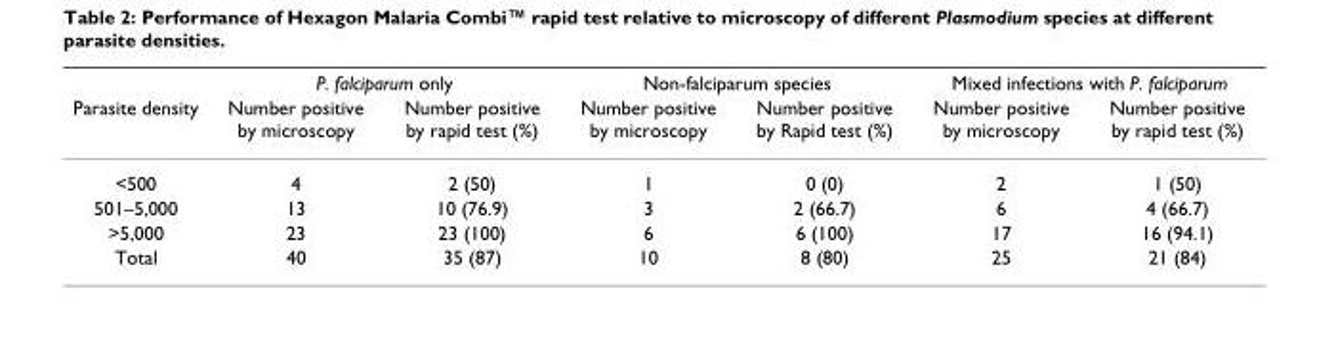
<table><thead><tr><td rowspan="2">Parasite density</td><td colspan="2">P. falciparum only</td><td colspan="2">Non-falciparum species</td><td colspan="2">Mixed infections with P. falciparum</td></tr><tr><td>Number positive by microscopy</td><td>Number positive by rapid test (%)</td><td>Number positive by microscopy</td><td>Number positive by Rapid test (%)</td><td>Number positive by microscopy</td><td>Number positive by rapid test (%)</td></tr></thead><tbody><tr><td>&lt;500</td><td>4</td><td>2 (50)</td><td>1</td><td>0 (0)</td><td>2</td><td>1 (50)</td></tr><tr><td>501–5,000</td><td>13</td><td>10 (76.9)</td><td>3</td><td>2 (66.7)</td><td>6</td><td>4 (66.7)</td></tr><tr><td>&gt;5,000</td><td>23</td><td>23 (100)</td><td>6</td><td>6 (100)</td><td>17</td><td>16 (94.1)</td></tr><tr><td>Total</td><td>40</td><td>35 (87)</td><td>10</td><td>8 (80)</td><td>25</td><td>21 (84)</td></tr></tbody></table>